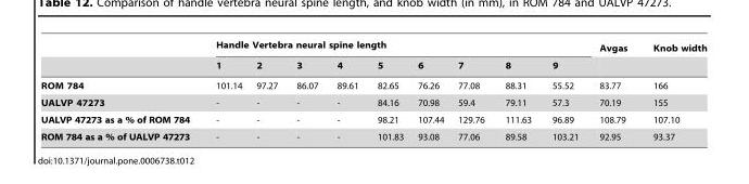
<table><thead><tr><td rowspan="2"></td><td colspan="9">Handle Vertebra neural spine length</td><td rowspan="2">Avgas</td><td rowspan="2">Knob width</td></tr><tr><td>1</td><td>2</td><td>3</td><td>4</td><td>5</td><td>6</td><td>7</td><td>8</td><td>9</td></tr></thead><tbody><tr><td>ROM 784</td><td>101.14</td><td>97.27</td><td>86.07</td><td>89.61</td><td>82.65</td><td>76.26</td><td>77.08</td><td>88.31</td><td>55.52</td><td>83.77</td><td>166</td></tr><tr><td>UALVP 47273</td><td>-</td><td>-</td><td>-</td><td>-</td><td>84.16</td><td>70.98</td><td>59.4</td><td>79.11</td><td>57.3</td><td>70.19</td><td>155</td></tr><tr><td>UALVP 47273 as a % of ROM 784</td><td>-</td><td>-</td><td>-</td><td>-</td><td>98.21</td><td>107.44</td><td>129.76</td><td>111.63</td><td>96.89</td><td>108.79</td><td>107.10</td></tr><tr><td>ROM 784 as a % of UALVP 47273</td><td>-</td><td>-</td><td>-</td><td>-</td><td>101.83</td><td>93.08</td><td>77.06</td><td>89.58</td><td>103.21</td><td>92.95</td><td>93.37</td></tr></tbody></table>